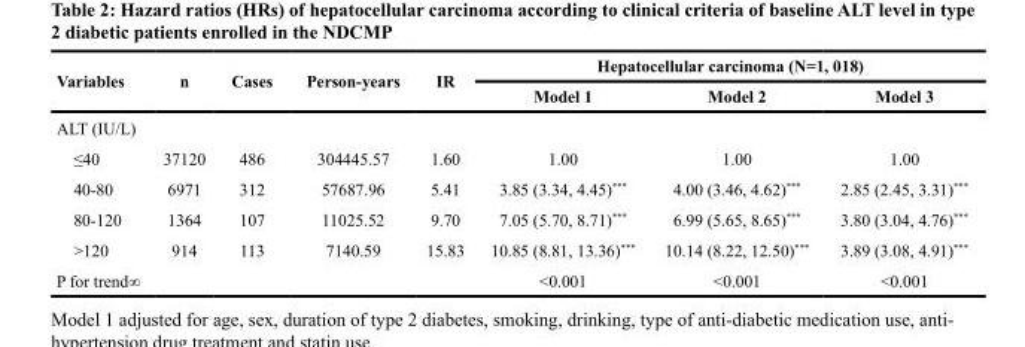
<table><thead><tr><td rowspan="2">Variables</td><td rowspan="2">n</td><td rowspan="2">Cases</td><td rowspan="2">Person-years</td><td rowspan="2">IR</td><td colspan="3">Hepatocellular carcinoma (N=1, 018)</td></tr><tr><td>Model 1</td><td>Model 2</td><td>Model 3</td></tr></thead><tbody><tr><td colspan="8">ALT (IU/L)</td></tr><tr><td>≤40</td><td>37120</td><td>486</td><td>304445.57</td><td>1.60</td><td>1.00</td><td>1.00</td><td>1.00</td></tr><tr><td>40-80</td><td>6971</td><td>312</td><td>57687.96</td><td>5.41</td><td>3.85 (3.34, 4.45)***</td><td>4.00 (3.46, 4.62)***</td><td>2.85 (2.45, 3.31)***</td></tr><tr><td>80-120</td><td>1364</td><td>107</td><td>11025.52</td><td>9.70</td><td>7.05 (5.70, 8.71)***</td><td>6.99 (5.65, 8.65)***</td><td>3.80 (3.04, 4.76)***</td></tr><tr><td>&gt;120</td><td>914</td><td>113</td><td>7140.59</td><td>15.83</td><td>10.85 (8.81, 13.36)***</td><td>10.14 (8.22, 12.50)***</td><td>3.89 (3.08, 4.91)***</td></tr><tr><td>P for trend∞</td><td></td><td></td><td></td><td></td><td>&lt;0.001</td><td>&lt;0.001</td><td>&lt;0.001</td></tr></tbody></table>